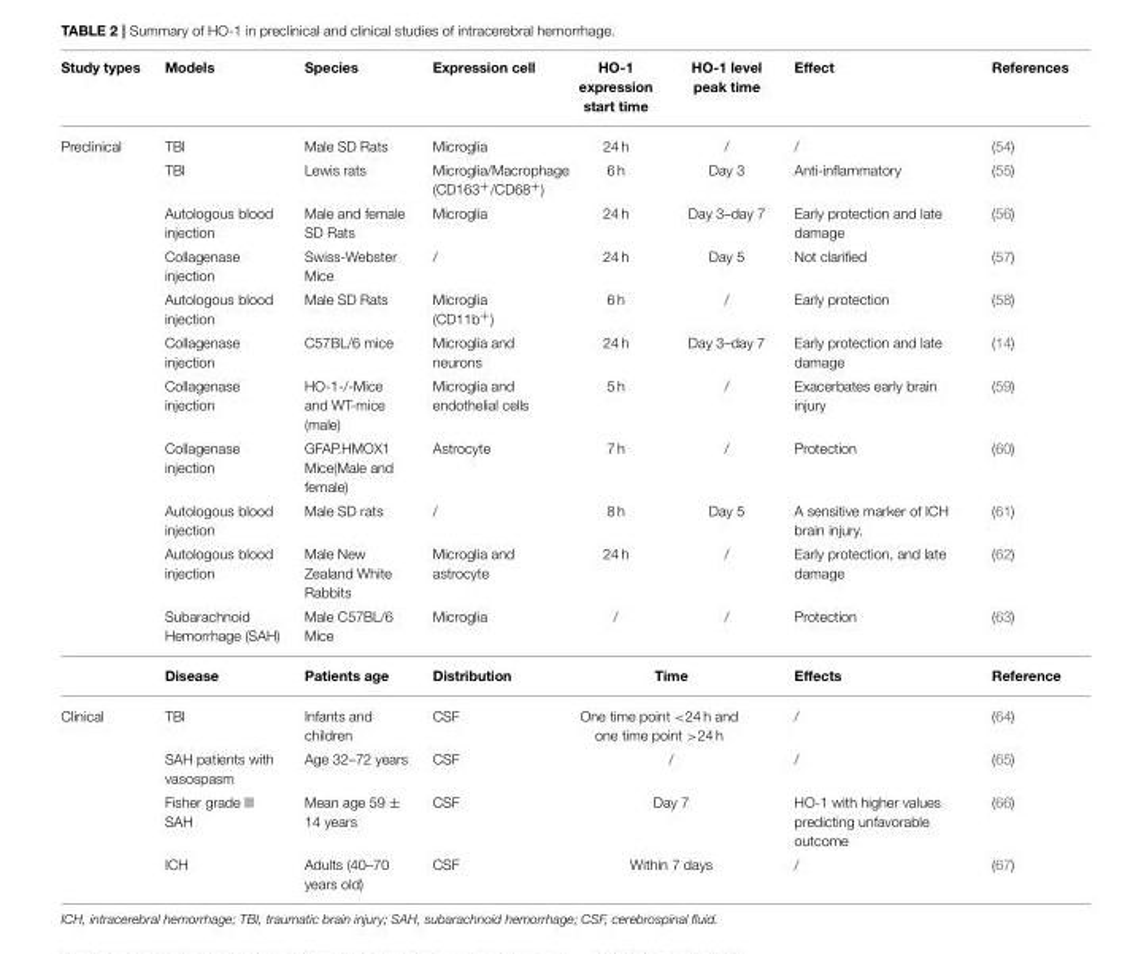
<table><thead><tr><td>Study types</td><td>Models</td><td>Species</td><td>Expression cell</td><td>HO-1 expression start time</td><td>HO-1 level peak time</td><td>Effect</td><td>References</td></tr></thead><tbody><tr><td rowspan="12">Preclinical</td><td>TBI</td><td>Male SD Rats</td><td>Microglia</td><td>24 h</td><td>/</td><td>/</td><td>(54)</td></tr><tr><td>TBI</td><td>Lewis rats</td><td>Microglia/Macrophage (CD163<sup>+</sup>/CD68<sup>+</sup>)</td><td>6 h</td><td>Day 3</td><td>Anti-inflammatory</td><td>(55)</td></tr><tr><td>Autologous blood injection</td><td>Male and female SD Rats</td><td>Microglia</td><td>24 h</td><td>Day 3–day 7</td><td>Early protection and late damage</td><td>(56)</td></tr><tr><td>Collagenase injection</td><td>Swiss-Webster Mice</td><td>/</td><td>24 h</td><td>Day 5</td><td>Not clarified</td><td>(57)</td></tr><tr><td>Autologous blood injection</td><td>Male SD Rats</td><td>Microglia (CD11b<sup>+</sup>)</td><td>6 h</td><td>/</td><td>Early protection</td><td>(58)</td></tr><tr><td>Collagenase injection</td><td>C57BL/6 mice</td><td>Microglia and neurons</td><td>24 h</td><td>Day 3–day 7</td><td>Early protection and late damage</td><td>(14)</td></tr><tr><td>Collagenase injection</td><td>HO-1-/-Mice and WT-mice (male)</td><td>Microglia and endothelial cells</td><td>5 h</td><td>/</td><td>Exacerbates early brain injury</td><td>(59)</td></tr><tr><td>Collagenase injection</td><td>GFAP.HMOX1 Mice(Male and female)</td><td>Astrocyte</td><td>7 h</td><td>/</td><td>Protection</td><td>(60)</td></tr><tr><td>Autologous blood injection</td><td>Male SD rats</td><td>/</td><td>8 h</td><td>Day 5</td><td>A sensitive marker of ICH brain injury.</td><td>(61)</td></tr><tr><td>Autologous blood injection</td><td>Male New Zealand White Rabbits</td><td>Microglia and astrocyte</td><td>24 h</td><td>/</td><td>Early protection, and late damage</td><td>(62)</td></tr><tr><td>Subarachnoid Hemorrhage (SAH)</td><td>Male C57BL/6 Mice</td><td>Microglia</td><td>/</td><td>/</td><td>Protection</td><td>(63)</td></tr><tr><td>Disease</td><td>Patients age</td><td>Distribution</td><td colspan="2">Time</td><td>Effects</td><td>Reference</td></tr><tr><td rowspan="4">Clinical</td><td>TBI</td><td>Infants and children</td><td>CSF</td><td colspan="2">One time point &lt;24 h and one time point &gt;24 h</td><td>/</td><td>(64)</td></tr><tr><td>SAH patients with vasospasm</td><td>Age 32–72 years</td><td>CSF</td><td colspan="2">/</td><td>/</td><td>(65)</td></tr><tr><td>Fisher grade III SAH</td><td>Mean age 59 ± 14 years</td><td>CSF</td><td colspan="2">Day 7</td><td>HO-1 with higher values predicting unfavorable outcome</td><td>(66)</td></tr><tr><td>ICH</td><td>Adults (40–70 years old)</td><td>CSF</td><td colspan="2">Within 7 days</td><td>/</td><td>(67)</td></tr></tbody></table>